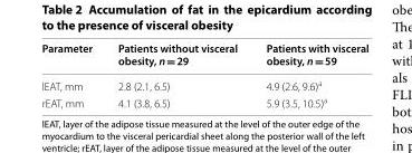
<table><thead><tr><td>Parameter</td><td>Patients without visceral obesity, n = 29</td><td>Patients with visceral obesity, n = 59</td></tr></thead><tbody><tr><td>lEAT, mm</td><td>2.8 (2.1, 6.5)</td><td>4.9 (2.6, 9.6)<sup>а</sup></td></tr><tr><td>rEAT, mm</td><td>4.1 (3.8, 6.5)</td><td>5.9 (3.5, 10.5)<sup>а</sup></td></tr></tbody></table>